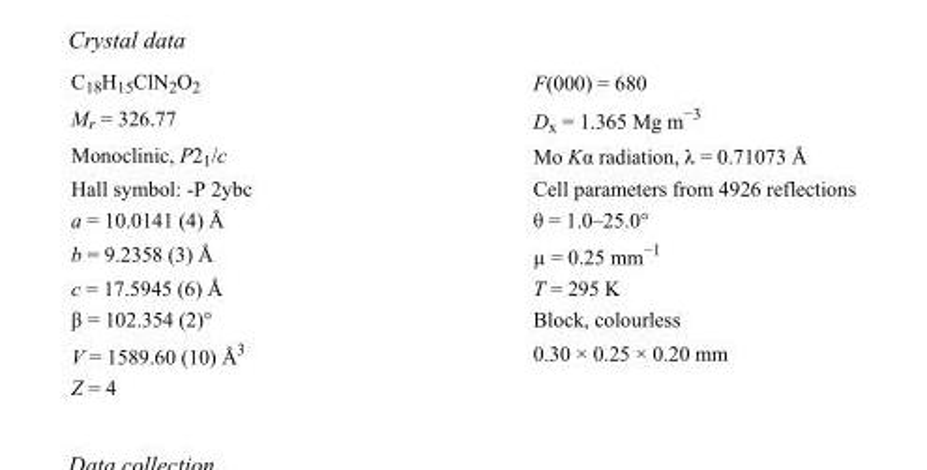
<table><tbody><tr><td>C<sub>18</sub>H<sub>15</sub>ClN<sub>2</sub>O<sub>2</sub></td><td>F(000) = 680</td></tr><tr><td>M<sub>r</sub> = 326.77</td><td>D<sub>x</sub> = 1.365 Mg m<sup>−3</sup></td></tr><tr><td>Monoclinic, P2<sub>1</sub>/c</td><td>Mo Kα radiation, λ = 0.71073 Å</td></tr><tr><td>Hall symbol: -P 2ybc</td><td>Cell parameters from 4926 reflections</td></tr><tr><td>a = 10.0141 (4) Å</td><td>θ = 1.0–25.0°</td></tr><tr><td>b = 9.2358 (3) Å</td><td>µ = 0.25 mm<sup>−1</sup></td></tr><tr><td>c = 17.5945 (6) Å</td><td>T = 295 K</td></tr><tr><td>β = 102.354 (2)°</td><td>Block, colourless</td></tr><tr><td>V = 1589.60 (10) Å<sup>3</sup></td><td>0.30 × 0.25 × 0.20 mm</td></tr><tr><td>Z = 4</td><td></td></tr></tbody></table>